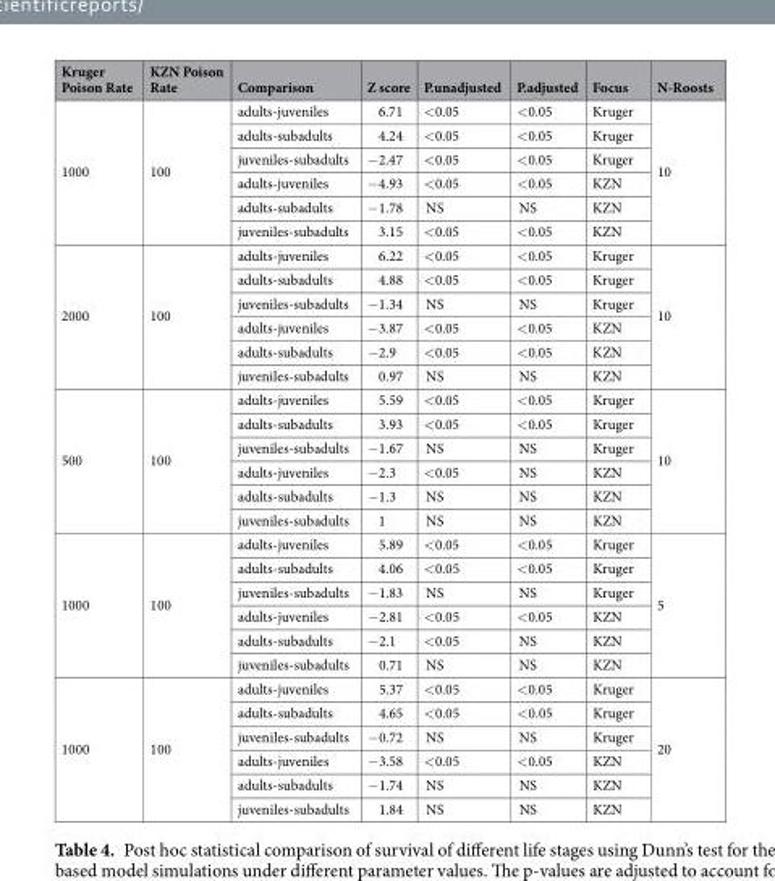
<table><thead><tr><td>Kruger Poison Rate</td><td>KZN Poison Rate</td><td>Comparison</td><td>Z score</td><td>P.unadjusted</td><td>P.adjusted</td><td>Focus</td><td>N-Roosts</td></tr></thead><tbody><tr><td rowspan="6">1000</td><td rowspan="6">100</td><td>adults-juveniles</td><td>6.71</td><td>&lt;0.05</td><td>&lt;0.05</td><td>Kruger</td><td rowspan="6">10</td></tr><tr><td>adults-subadults</td><td>4.24</td><td>&lt;0.05</td><td>&lt;0.05</td><td>Kruger</td></tr><tr><td>juveniles-subadults</td><td>−2.47</td><td>&lt;0.05</td><td>&lt;0.05</td><td>Kruger</td></tr><tr><td>adults-juveniles</td><td>−4.93</td><td>&lt;0.05</td><td>&lt;0.05</td><td>KZN</td></tr><tr><td>adults-subadults</td><td>−1.78</td><td>NS</td><td>NS</td><td>KZN</td></tr><tr><td>juveniles-subadults</td><td>3.15</td><td>&lt;0.05</td><td>&lt;0.05</td><td>KZN</td></tr><tr><td rowspan="6">2000</td><td rowspan="6">100</td><td>adults-juveniles</td><td>6.22</td><td>&lt;0.05</td><td>&lt;0.05</td><td>Kruger</td><td rowspan="6">10</td></tr><tr><td>adults-subadults</td><td>4.88</td><td>&lt;0.05</td><td>&lt;0.05</td><td>Kruger</td></tr><tr><td>juveniles-subadults</td><td>−1.34</td><td>NS</td><td>NS</td><td>Kruger</td></tr><tr><td>adults-juveniles</td><td>−3.87</td><td>&lt;0.05</td><td>&lt;0.05</td><td>KZN</td></tr><tr><td>adults-subadults</td><td>−2.9</td><td>&lt;0.05</td><td>&lt;0.05</td><td>KZN</td></tr><tr><td>juveniles-subadults</td><td>0.97</td><td>NS</td><td>NS</td><td>KZN</td></tr><tr><td rowspan="6">500</td><td rowspan="6">100</td><td>adults-juveniles</td><td>5.59</td><td>&lt;0.05</td><td>&lt;0.05</td><td>Kruger</td><td rowspan="6">10</td></tr><tr><td>adults-subadults</td><td>3.93</td><td>&lt;0.05</td><td>&lt;0.05</td><td>Kruger</td></tr><tr><td>juveniles-subadults</td><td>−1.67</td><td>NS</td><td>NS</td><td>Kruger</td></tr><tr><td>adults-juveniles</td><td>−2.3</td><td>&lt;0.05</td><td>NS</td><td>KZN</td></tr><tr><td>adults-subadults</td><td>−1.3</td><td>NS</td><td>NS</td><td>KZN</td></tr><tr><td>juveniles-subadults</td><td>1</td><td>NS</td><td>NS</td><td>KZN</td></tr><tr><td rowspan="6">1000</td><td rowspan="6">100</td><td>adults-juveniles</td><td>5.89</td><td>&lt;0.05</td><td>&lt;0.05</td><td>Kruger</td><td rowspan="6">5</td></tr><tr><td>adults-subadults</td><td>4.06</td><td>&lt;0.05</td><td>&lt;0.05</td><td>Kruger</td></tr><tr><td>juveniles-subadults</td><td>−1.83</td><td>NS</td><td>NS</td><td>Kruger</td></tr><tr><td>adults-juveniles</td><td>−2.81</td><td>&lt;0.05</td><td>&lt;0.05</td><td>KZN</td></tr><tr><td>adults-subadults</td><td>−2.1</td><td>&lt;0.05</td><td>NS</td><td>KZN</td></tr><tr><td>juveniles-subadults</td><td>0.71</td><td>NS</td><td>NS</td><td>KZN</td></tr><tr><td rowspan="6">1000</td><td rowspan="6">100</td><td>adults-juveniles</td><td>5.37</td><td>&lt;0.05</td><td>&lt;0.05</td><td>Kruger</td><td rowspan="6">20</td></tr><tr><td>adults-subadults</td><td>4.65</td><td>&lt;0.05</td><td>&lt;0.05</td><td>Kruger</td></tr><tr><td>juveniles-subadults</td><td>−0.72</td><td>NS</td><td>NS</td><td>Kruger</td></tr><tr><td>adults-juveniles</td><td>−3.58</td><td>&lt;0.05</td><td>&lt;0.05</td><td>KZN</td></tr><tr><td>adults-subadults</td><td>−1.74</td><td>NS</td><td>NS</td><td>KZN</td></tr><tr><td>juveniles-subadults</td><td>1.84</td><td>NS</td><td>NS</td><td>KZN</td></tr></tbody></table>